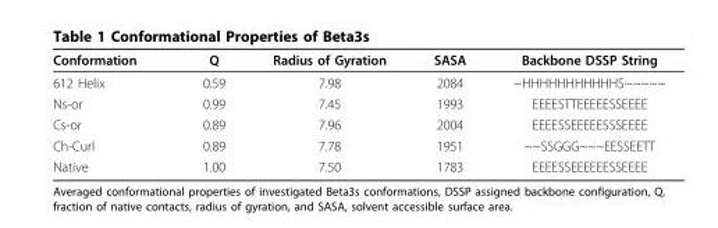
<table><thead><tr><td>Conformation</td><td>Q</td><td>Radius of Gyration</td><td>SASA</td><td>Backbone DSSP String</td></tr></thead><tbody><tr><td>612 Helix</td><td>0.59</td><td>7.98</td><td>2084</td><td>~HHHHHHHHHHHS~~~~~</td></tr><tr><td>Ns-or</td><td>0.99</td><td>7.45</td><td>1993</td><td>EEEESTTEEEEESSEEEE</td></tr><tr><td>Cs-or</td><td>0.89</td><td>7.96</td><td>2004</td><td>EEEESSEEEEESSSEEEE</td></tr><tr><td>Ch-Curl</td><td>0.89</td><td>7.78</td><td>1951</td><td>~~SSGGG~~~EESSEETT</td></tr><tr><td>Native</td><td>1.00</td><td>7.50</td><td>1783</td><td>EEEESSEEEEEESSEEEE</td></tr></tbody></table>